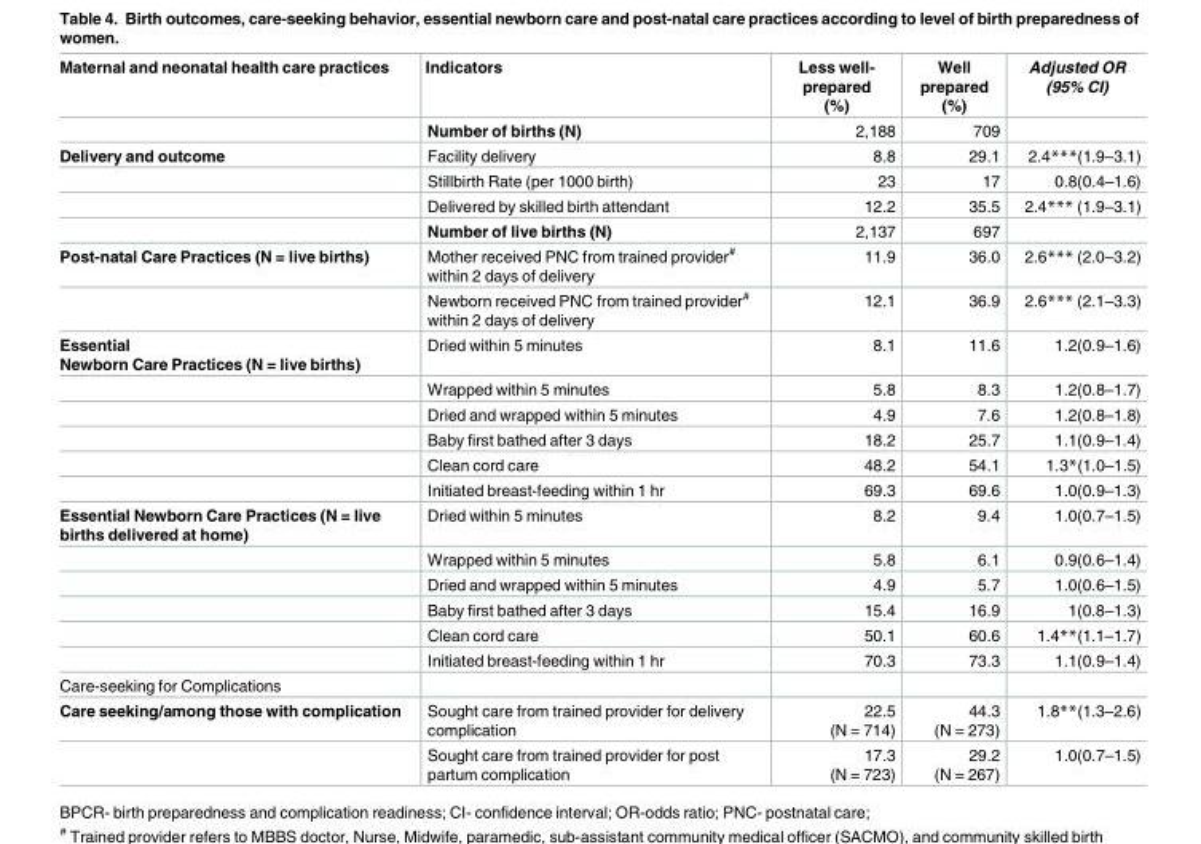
<table><thead><tr><td>Maternal and neonatal health care practices</td><td>Indicators</td><td>Less well- prepared (%)</td><td>Well prepared (%)</td><td>Adjusted OR (95% CI)</td></tr></thead><tbody><tr><td></td><td>Number of births (N)</td><td>2,188</td><td>709</td><td></td></tr><tr><td rowspan="4">Delivery and outcome</td><td>Facility delivery</td><td>8.8</td><td>29.1</td><td>2.4***(1.9–3.1)</td></tr><tr><td>Stillbirth Rate (per 1000 birth)</td><td>23</td><td>17</td><td>0.8(0.4–1.6)</td></tr><tr><td>Delivered by skilled birth attendant</td><td>12.2</td><td>35.5</td><td>2.4*** (1.9–3.1)</td></tr><tr><td>Number of live births (N)</td><td>2,137</td><td>697</td><td></td></tr><tr><td rowspan="2">Post-natal Care Practices (N = live births)</td><td>Mother received PNC from trained provider<sup>#</sup> within 2 days of delivery</td><td>11.9</td><td>36.0</td><td>2.6*** (2.0–3.2)</td></tr><tr><td>Newborn received PNC from trained provider<sup>#</sup> within 2 days of delivery</td><td>12.1</td><td>36.9</td><td>2.6*** (2.1–3.3)</td></tr><tr><td rowspan="6">Essential Newborn Care Practices (N = live births)</td><td>Dried within 5 minutes</td><td>8.1</td><td>11.6</td><td>1.2(0.9–1.6)</td></tr><tr><td>Wrapped within 5 minutes</td><td>5.8</td><td>8.3</td><td>1.2(0.8–1.7)</td></tr><tr><td>Dried and wrapped within 5 minutes</td><td>4.9</td><td>7.6</td><td>1.2(0.8–1.8)</td></tr><tr><td>Baby first bathed after 3 days</td><td>18.2</td><td>25.7</td><td>1.1(0.9–1.4)</td></tr><tr><td>Clean cord care</td><td>48.2</td><td>54.1</td><td>1.3*(1.0–1.5)</td></tr><tr><td>Initiated breast-feeding within 1 hr</td><td>69.3</td><td>69.6</td><td>1.0(0.9–1.3)</td></tr><tr><td rowspan="6">Essential Newborn Care Practices (N = live births delivered at home)</td><td>Dried within 5 minutes</td><td>8.2</td><td>9.4</td><td>1.0(0.7–1.5)</td></tr><tr><td>Wrapped within 5 minutes</td><td>5.8</td><td>6.1</td><td>0.9(0.6–1.4)</td></tr><tr><td>Dried and wrapped within 5 minutes</td><td>4.9</td><td>5.7</td><td>1.0(0.6–1.5)</td></tr><tr><td>Baby first bathed after 3 days</td><td>15.4</td><td>16.9</td><td>1(0.8–1.3)</td></tr><tr><td>Clean cord care</td><td>50.1</td><td>60.6</td><td>1.4**(1.1–1.7)</td></tr><tr><td>Initiated breast-feeding within 1 hr</td><td>70.3</td><td>73.3</td><td>1.1(0.9–1.4)</td></tr><tr><td colspan="5">Care-seeking for Complications</td></tr><tr><td rowspan="2">Care seeking/among those with complication</td><td>Sought care from trained provider for delivery complication</td><td>22.5 (N = 714)</td><td>44.3 (N = 273)</td><td>1.8**(1.3–2.6)</td></tr><tr><td>Sought care from trained provider for post partum complication</td><td>17.3 (N = 723)</td><td>29.2 (N = 267)</td><td>1.0(0.7–1.5)</td></tr></tbody></table>